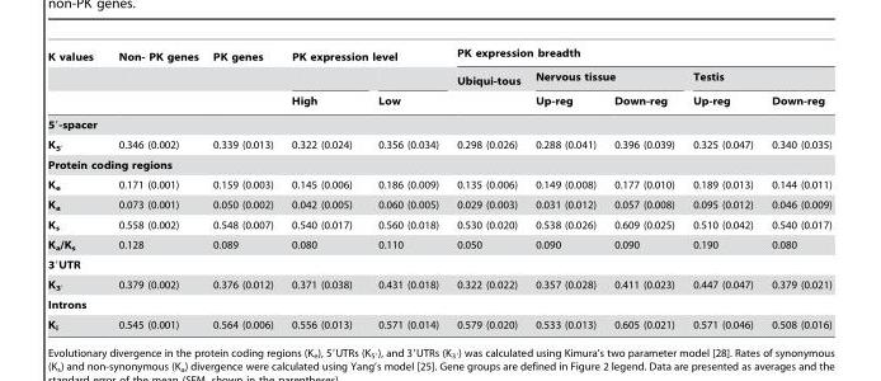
<table><thead><tr><td rowspan="3">K values</td><td rowspan="3">Non- PK genes</td><td rowspan="3">PK genes</td><td colspan="2">PK expression level</td><td colspan="5">PK expression breadth</td></tr><tr><td rowspan="2">High</td><td rowspan="2">Low</td><td rowspan="2">Ubiqui-tous</td><td colspan="2">Nervous tissue</td><td colspan="2">Testis</td></tr><tr><td>Up-reg</td><td>Down-reg</td><td>Up-reg</td><td>Down-reg</td></tr></thead><tbody><tr><td colspan="10">5′-spacer</td></tr><tr><td>K<sub>5′</sub></td><td>0.346 (0.002)</td><td>0.339 (0.013)</td><td>0.322 (0.024)</td><td>0.356 (0.034)</td><td>0.298 (0.026)</td><td>0.288 (0.041)</td><td>0.396 (0.039)</td><td>0.325 (0.047)</td><td>0.340 (0.035)</td></tr><tr><td colspan="10">Protein coding regions</td></tr><tr><td>K<sub>e</sub></td><td>0.171 (0.001)</td><td>0.159 (0.003)</td><td>0.145 (0.006)</td><td>0.186 (0.009)</td><td>0.135 (0.006)</td><td>0.149 (0.008)</td><td>0.177 (0.010)</td><td>0.189 (0.013)</td><td>0.144 (0.011)</td></tr><tr><td>K<sub>a</sub></td><td>0.073 (0.001)</td><td>0.050 (0.002)</td><td>0.042 (0.005)</td><td>0.060 (0.005)</td><td>0.029 (0.003)</td><td>0.031 (0.012)</td><td>0.057 (0.008)</td><td>0.095 (0.012)</td><td>0.046 (0.009)</td></tr><tr><td>K<sub>s</sub></td><td>0.558 (0.002)</td><td>0.548 (0.007)</td><td>0.540 (0.017)</td><td>0.560 (0.018)</td><td>0.530 (0.020)</td><td>0.538 (0.026)</td><td>0.609 (0.025)</td><td>0.510 (0.042)</td><td>0.540 (0.017)</td></tr><tr><td>K<sub>a</sub>/K<sub>s</sub></td><td>0.128</td><td>0.089</td><td>0.080</td><td>0.110</td><td>0.050</td><td>0.090</td><td>0.090</td><td>0.190</td><td>0.080</td></tr><tr><td colspan="10">3′UTR</td></tr><tr><td>K<sub>3′</sub></td><td>0.379 (0.002)</td><td>0.376 (0.012)</td><td>0.371 (0.038)</td><td>0.431 (0.018)</td><td>0.322 (0.022)</td><td>0.357 (0.028)</td><td>0.411 (0.023)</td><td>0.447 (0.047)</td><td>0.379 (0.021)</td></tr><tr><td colspan="10">Introns</td></tr><tr><td>K<sub>i</sub></td><td>0.545 (0.001)</td><td>0.564 (0.006)</td><td>0.556 (0.013)</td><td>0.571 (0.014)</td><td>0.579 (0.020)</td><td>0.533 (0.013)</td><td>0.605 (0.021)</td><td>0.571 (0.046)</td><td>0.508 (0.016)</td></tr></tbody></table>